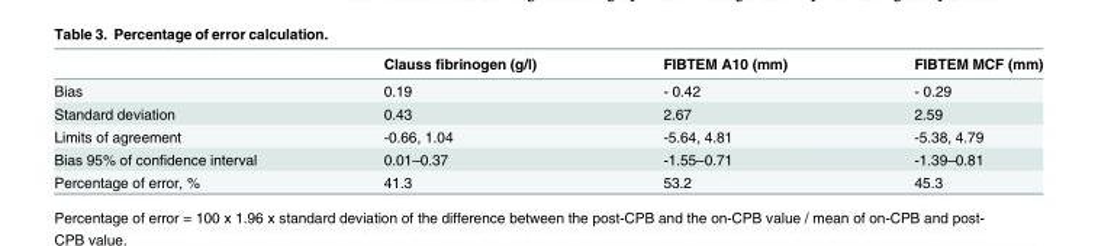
<table><thead><tr><td></td><td>Clauss fibrinogen (g/l)</td><td>FIBTEM A10 (mm)</td><td>FIBTEM MCF (mm)</td></tr></thead><tbody><tr><td>Bias</td><td>0.19</td><td>- 0.42</td><td>- 0.29</td></tr><tr><td>Standard deviation</td><td>0.43</td><td>2.67</td><td>2.59</td></tr><tr><td>Limits of agreement</td><td>-0.66, 1.04</td><td>-5.64, 4.81</td><td>-5.38, 4.79</td></tr><tr><td>Bias 95% of confidence interval</td><td>0.01–0.37</td><td>-1.55–0.71</td><td>-1.39–0.81</td></tr><tr><td>Percentage of error, %</td><td>41.3</td><td>53.2</td><td>45.3</td></tr></tbody></table>